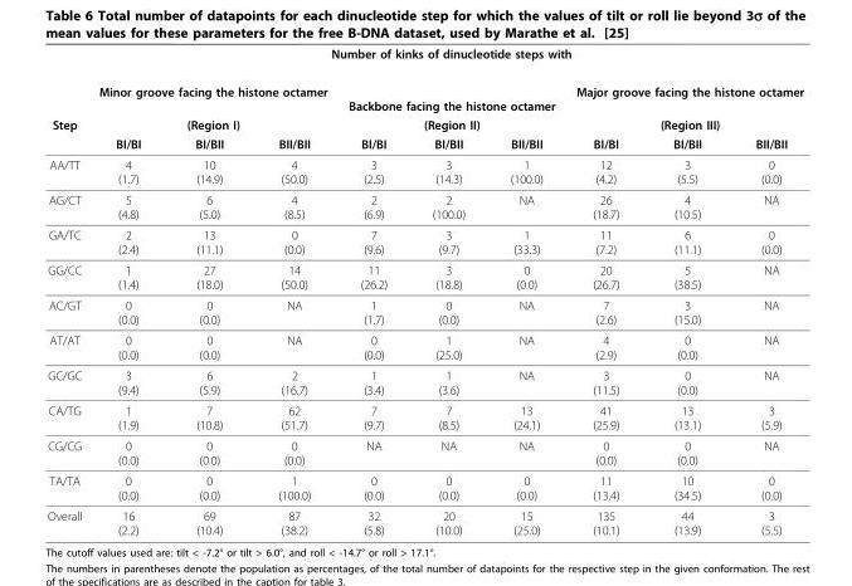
<table><thead><tr><td rowspan="4">Step</td><td colspan="9">Number of kinks of dinucleotide steps with</td></tr><tr><td rowspan="2" colspan="3">Minor groove facing the histone octamer (Region I)</td><td rowspan="2" colspan="3">Backbone facing the histone octamer (Region II)</td><td rowspan="2" colspan="3">Major groove facing the histone octamer (Region III)</td></tr><tr></tr><tr><td>BI/BI</td><td>BI/BII</td><td>BII/BII</td><td>BI/BI</td><td>BI/BII</td><td>BII/BII</td><td>BI/BI</td><td>BI/BII</td><td>BII/BII</td></tr></thead><tbody><tr><td>AA/TT</td><td>4 (1.7)</td><td>10 (14.9)</td><td>4 (50.0)</td><td>3 (2.5)</td><td>3 (14.3)</td><td>1 (100.0)</td><td>12 (4.2)</td><td>3 (5.5)</td><td>0 (0.0)</td></tr><tr><td>AG/CT</td><td>5 (4.8)</td><td>6 (5.0)</td><td>4 (8.5)</td><td>2 (6.9)</td><td>2 (100.0)</td><td>NA</td><td>26 (18.7)</td><td>4 (10.5)</td><td>NA</td></tr><tr><td>GA/TC</td><td>2 (2.4)</td><td>13 (11.1)</td><td>0 (0.0)</td><td>7 (9.6)</td><td>3 (9.7)</td><td>1 (33.3)</td><td>11 (7.2)</td><td>6 (11.1)</td><td>0 (0.0)</td></tr><tr><td>GG/CC</td><td>1 (1.4)</td><td>27 (18.0)</td><td>14 (50.0)</td><td>11 (26.2)</td><td>3 (18.8)</td><td>0 (0.0)</td><td>20 (26.7)</td><td>5 (38.5)</td><td>NA</td></tr><tr><td>AC/GT</td><td>0 (0.0)</td><td>0 (0.0)</td><td>NA</td><td>1 (1.7)</td><td>0 (0.0)</td><td>NA</td><td>7 (2.6)</td><td>3 (15.0)</td><td>NA</td></tr><tr><td>AT/AT</td><td>0 (0.0)</td><td>0 (0.0)</td><td>NA</td><td>0 (0.0)</td><td>1 (25.0)</td><td>NA</td><td>4 (2.9)</td><td>0 (0.0)</td><td>NA</td></tr><tr><td>GC/GC</td><td>3 (9.4)</td><td>6 (5.9)</td><td>2 (16.7)</td><td>1 (3.4)</td><td>1 (3.6)</td><td>NA</td><td>3 (11.5)</td><td>0 (0.0)</td><td>NA</td></tr><tr><td>CA/TG</td><td>1 (1.9)</td><td>7 (10.8)</td><td>62 (51.7)</td><td>7 (9.7)</td><td>7 (8.5)</td><td>13 (24.1)</td><td>41 (25.9)</td><td>13 (13.1)</td><td>3 (5.9)</td></tr><tr><td>CG/CG</td><td>0 (0.0)</td><td>0 (0.0)</td><td>0 (0.0)</td><td>NA</td><td>NA</td><td>NA</td><td>0 (0.0)</td><td>0 (0.0)</td><td>NA</td></tr><tr><td>TA/TA</td><td>0 (0.0)</td><td>0 (0.0)</td><td>1 (100.0)</td><td>0 (0.0)</td><td>0 (0.0)</td><td>0 (0.0)</td><td>11 (13.4)</td><td>10 (34.5)</td><td>0 (0.0)</td></tr><tr><td>Overall</td><td>16 (2.2)</td><td>69 (10.4)</td><td>87 (38.2)</td><td>32 (5.8)</td><td>20 (10.0)</td><td>15 (25.0)</td><td>135 (10.1)</td><td>44 (13.9)</td><td>3 (5.5)</td></tr></tbody></table>